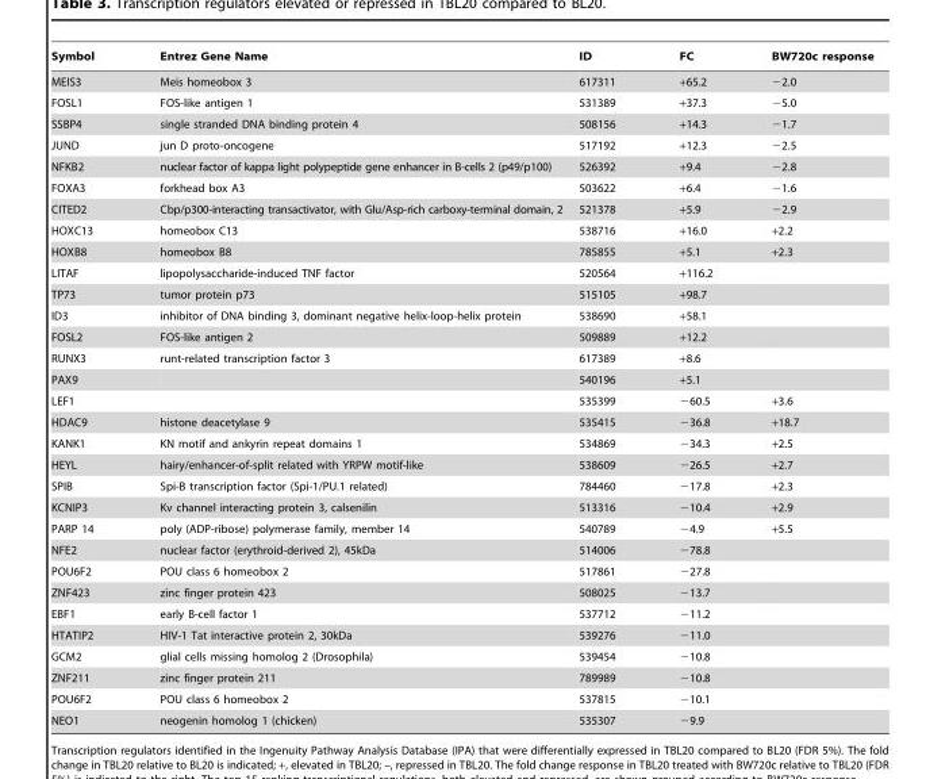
<table><thead><tr><td>Symbol</td><td>Entrez Gene Name</td><td>ID</td><td>FC</td><td>BW720c response</td></tr></thead><tbody><tr><td>MEIS3</td><td>Meis homeobox 3</td><td>617311</td><td>+65.2</td><td>−2.0</td></tr><tr><td>FOSL1</td><td>FOS-like antigen 1</td><td>531389</td><td>+37.3</td><td>−5.0</td></tr><tr><td>SSBP4</td><td>single stranded DNA binding protein 4</td><td>508156</td><td>+14.3</td><td>−1.7</td></tr><tr><td>JUND</td><td>jun D proto-oncogene</td><td>517192</td><td>+12.3</td><td>−2.5</td></tr><tr><td>NFKB2</td><td>nuclear factor of kappa light polypeptide gene enhancer in B-cells 2 (p49/p100)</td><td>526392</td><td>+9.4</td><td>−2.8</td></tr><tr><td>FOXA3</td><td>forkhead box A3</td><td>503622</td><td>+6.4</td><td>−1.6</td></tr><tr><td>CITED2</td><td>Cbp/p300-interacting transactivator, with Glu/Asp-rich carboxy-terminal domain, 2</td><td>521378</td><td>+5.9</td><td>−2.9</td></tr><tr><td>HOXC13</td><td>homeobox C13</td><td>538716</td><td>+16.0</td><td>+2.2</td></tr><tr><td>HOXB8</td><td>homeobox B8</td><td>785855</td><td>+5.1</td><td>+2.3</td></tr><tr><td>LITAF</td><td>lipopolysaccharide-induced TNF factor</td><td>520564</td><td>+116.2</td><td></td></tr><tr><td>TP73</td><td>tumor protein p73</td><td>515105</td><td>+98.7</td><td></td></tr><tr><td>ID3</td><td>inhibitor of DNA binding 3, dominant negative helix-loop-helix protein</td><td>538690</td><td>+58.1</td><td></td></tr><tr><td>FOSL2</td><td>FOS-like antigen 2</td><td>509889</td><td>+12.2</td><td></td></tr><tr><td>RUNX3</td><td>runt-related transcription factor 3</td><td>617389</td><td>+8.6</td><td></td></tr><tr><td>PAX9</td><td></td><td>540196</td><td>+5.1</td><td></td></tr><tr><td>LEF1</td><td></td><td>535399</td><td>−60.5</td><td>+3.6</td></tr><tr><td>HDAC9</td><td>histone deacetylase 9</td><td>535415</td><td>−36.8</td><td>+18.7</td></tr><tr><td>KANK1</td><td>KN motif and ankyrin repeat domains 1</td><td>534869</td><td>−34.3</td><td>+2.5</td></tr><tr><td>HEYL</td><td>hairy/enhancer-of-split related with YRPW motif-like</td><td>538609</td><td>−26.5</td><td>+2.7</td></tr><tr><td>SPIB</td><td>Spi-B transcription factor (Spi-1/PU.1 related)</td><td>784460</td><td>−17.8</td><td>+2.3</td></tr><tr><td>KCNIP3</td><td>Kv channel interacting protein 3, calsenilin</td><td>513316</td><td>−10.4</td><td>+2.9</td></tr><tr><td>PARP 14</td><td>poly (ADP-ribose) polymerase family, member 14</td><td>540789</td><td>−4.9</td><td>+5.5</td></tr><tr><td>NFE2</td><td>nuclear factor (erythroid-derived 2), 45kDa</td><td>514006</td><td>−78.8</td><td></td></tr><tr><td>POU6F2</td><td>POU class 6 homeobox 2</td><td>517861</td><td>−27.8</td><td></td></tr><tr><td>ZNF423</td><td>zinc finger protein 423</td><td>508025</td><td>−13.7</td><td></td></tr><tr><td>EBF1</td><td>early B-cell factor 1</td><td>537712</td><td>−11.2</td><td></td></tr><tr><td>HTATIP2</td><td>HIV-1 Tat interactive protein 2, 30kDa</td><td>539276</td><td>−11.0</td><td></td></tr><tr><td>GCM2</td><td>glial cells missing homolog 2 (Drosophila)</td><td>539454</td><td>−10.8</td><td></td></tr><tr><td>ZNF211</td><td>zinc finger protein 211</td><td>789989</td><td>−10.8</td><td></td></tr><tr><td>POU6F2</td><td>POU class 6 homeobox 2</td><td>537815</td><td>−10.1</td><td></td></tr><tr><td>NEO1</td><td>neogenin homolog 1 (chicken)</td><td>535307</td><td>−9.9</td><td></td></tr></tbody></table>